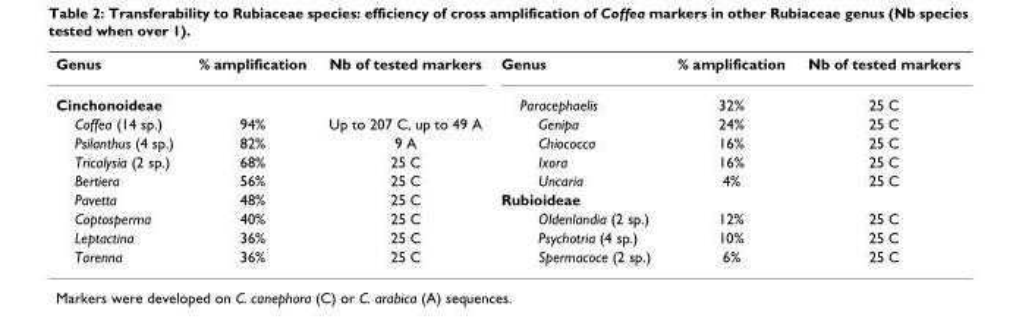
<table><tbody><tr><td>Genus</td><td>% amplification</td><td>Nb of tested markers</td><td>Genus</td><td>% amplification</td><td>Nb of tested markers</td></tr><tr><td>Cinchonoideae</td><td></td><td></td><td>Paracephaelis</td><td>32%</td><td>25 C</td></tr><tr><td>Coffea (14 sp.)</td><td>94%</td><td>Up to 207 C, up to 49 A</td><td>Genipa</td><td>24%</td><td>25 C</td></tr><tr><td>Psilanthus (4 sp.)</td><td>82%</td><td>9 A</td><td>Chiococca</td><td>16%</td><td>25 C</td></tr><tr><td>Tricalysia (2 sp.)</td><td>68%</td><td>25 C</td><td>Ixora</td><td>16%</td><td>25 C</td></tr><tr><td>Bertiera</td><td>56%</td><td>25 C</td><td>Uncaria</td><td>4%</td><td>25 C</td></tr><tr><td>Pavetta</td><td>48%</td><td>25 C</td><td>Rubioideae</td><td></td><td></td></tr><tr><td>Coptosperma</td><td>40%</td><td>25 C</td><td>Oldenlandia (2 sp.)</td><td>12%</td><td>25 C</td></tr><tr><td>Leptactina</td><td>36%</td><td>25 C</td><td>Psychotria (4 sp.)</td><td>10%</td><td>25 C</td></tr><tr><td>Tarenna</td><td>36%</td><td>25 C</td><td>Spermacoce (2 sp.)</td><td>6%</td><td>25 C</td></tr></tbody></table>